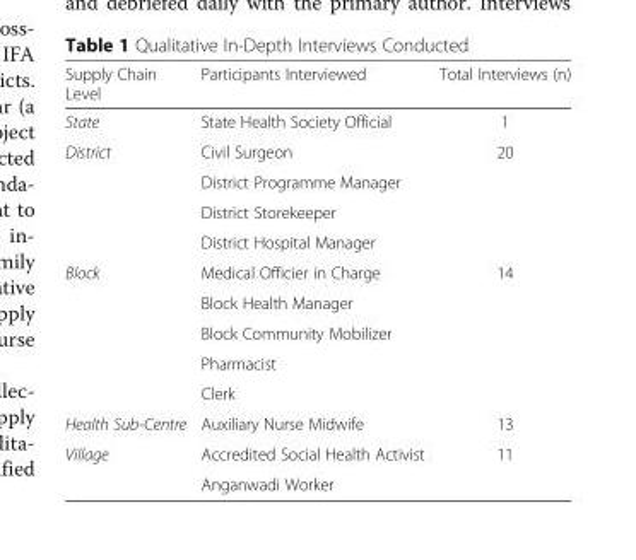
<table><thead><tr><td>Supply Chain Level</td><td>Participants Interviewed</td><td>Total Interviews (n)</td></tr></thead><tbody><tr><td>State</td><td>State Health Society Official</td><td>1</td></tr><tr><td rowspan="4">District</td><td>Civil Surgeon</td><td rowspan="4">20</td></tr><tr><td>District Programme Manager</td></tr><tr><td>District Storekeeper</td></tr><tr><td>District Hospital Manager</td></tr><tr><td rowspan="5">Block</td><td>Medical Officier in Charge</td><td rowspan="5">14</td></tr><tr><td>Block Health Manager</td></tr><tr><td>Block Community Mobilizer</td></tr><tr><td>Pharmacist</td></tr><tr><td>Clerk</td></tr><tr><td>Health Sub-Centre</td><td>Auxiliary Nurse Midwife</td><td>13</td></tr><tr><td rowspan="2">Village</td><td>Accredited Social Health Activist</td><td rowspan="2">11</td></tr><tr><td>Anganwadi Worker</td></tr></tbody></table>